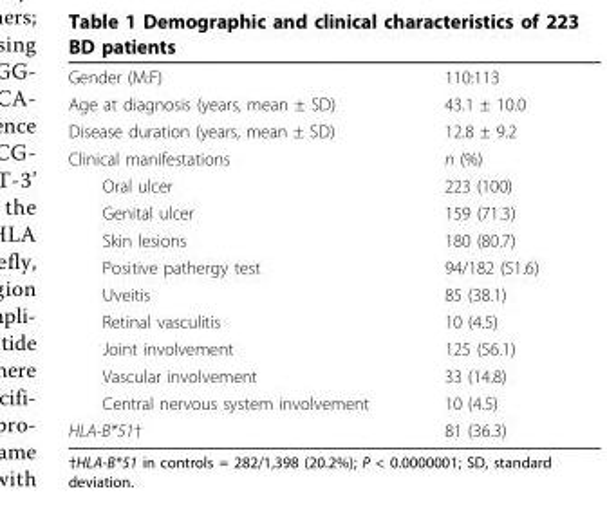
<table><tbody><tr><td>Gender (M:F)</td><td>110:113</td></tr><tr><td>Age at diagnosis (years, mean ± SD)</td><td>43.1 ± 10.0</td></tr><tr><td>Disease duration (years, mean ± SD)</td><td>12.8 ± 9.2</td></tr><tr><td>Clinical manifestations</td><td>n (%)</td></tr><tr><td>Oral ulcer</td><td>223 (100)</td></tr><tr><td>Genital ulcer</td><td>159 (71.3)</td></tr><tr><td>Skin lesions</td><td>180 (80.7)</td></tr><tr><td>Positive pathergy test</td><td>94/182 (51.6)</td></tr><tr><td>Uveitis</td><td>85 (38.1)</td></tr><tr><td>Retinal vasculitis</td><td>10 (4.5)</td></tr><tr><td>Joint involvement</td><td>125 (56.1)</td></tr><tr><td>Vascular involvement</td><td>33 (14.8)</td></tr><tr><td>Central nervous system involvement</td><td>10 (4.5)</td></tr><tr><td>HLA-B*51†</td><td>81 (36.3)</td></tr></tbody></table>